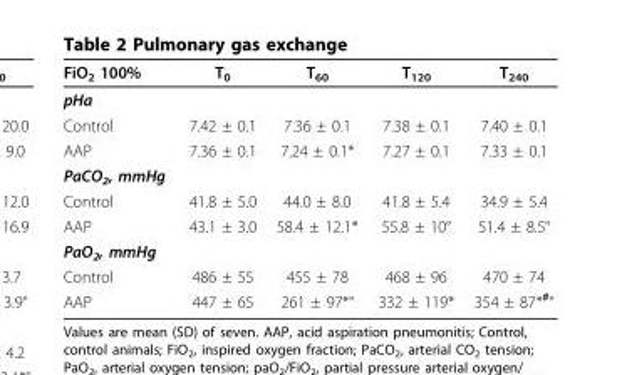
<table><thead><tr><td>FiO<sub>2</sub> 100%</td><td>T<sub>0</sub></td><td>T<sub>60</sub></td><td>T<sub>120</sub></td><td>T<sub>240</sub></td></tr></thead><tbody><tr><td colspan="5">pHa</td></tr><tr><td>Control</td><td>7.42 ± 0.1</td><td>7.36 ± 0.1</td><td>7.38 ± 0.1</td><td>7.40 ± 0.1</td></tr><tr><td>AAP</td><td>7.36 ± 0.1</td><td>7.24 ± 0.1*</td><td>7.27 ± 0.1</td><td>7.33 ± 0.1</td></tr><tr><td colspan="5">PaCO<sub>2</sub>, mmHg</td></tr><tr><td>Control</td><td>41.8 ± 5.0</td><td>44.0 ± 8.0</td><td>41.8 ± 5.4</td><td>34.9 ± 5.4</td></tr><tr><td>AAP</td><td>43.1 ± 3.0</td><td>58.4 ± 12.1*</td><td>55.8 ± 10°</td><td>51.4 ± 8.5°</td></tr><tr><td colspan="5">PaO<sub>2</sub>, mmHg</td></tr><tr><td>Control</td><td>486 ± 55</td><td>455 ± 78</td><td>468 ± 96</td><td>470 ± 74</td></tr><tr><td>AAP</td><td>447 ± 65</td><td>261 ± 97*°</td><td>332 ± 119*</td><td>354 ± 87*<sup>#</sup>°</td></tr></tbody></table>